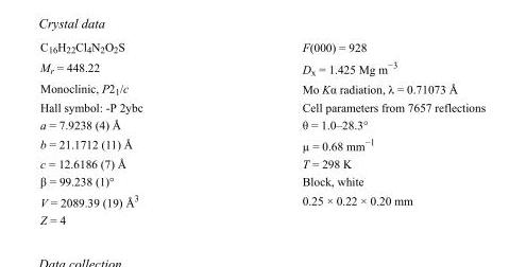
<table><tbody><tr><td>C<sub>16</sub>H<sub>22</sub>Cl<sub>4</sub>N<sub>2</sub>O<sub>2</sub>S</td><td>F(000) = 928</td></tr><tr><td>M<sub>r</sub> = 448.22</td><td>D<sub>x</sub> = 1.425 Mg m<sup>−3</sup></td></tr><tr><td>Monoclinic, P2<sub>1</sub>/c</td><td>Mo Kα radiation, λ = 0.71073 Å</td></tr><tr><td>Hall symbol: -P 2ybc</td><td>Cell parameters from 7657 reflections</td></tr><tr><td>a = 7.9238 (4) Å</td><td>θ = 1.0–28.3°</td></tr><tr><td>b = 21.1712 (11) Å</td><td>µ = 0.68 mm<sup>−1</sup></td></tr><tr><td>c = 12.6186 (7) Å</td><td>T = 298 K</td></tr><tr><td>β = 99.238 (1)°</td><td>Block, white</td></tr><tr><td>V = 2089.39 (19) Å<sup>3</sup></td><td>0.25 × 0.22 × 0.20 mm</td></tr><tr><td>Z = 4</td><td></td></tr></tbody></table>